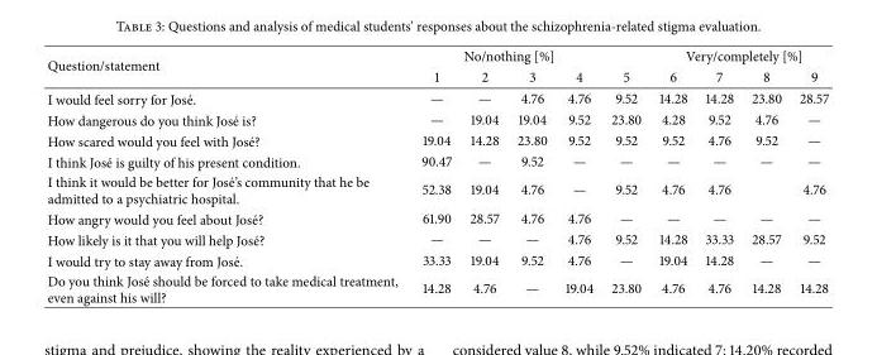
<table><thead><tr><td rowspan="2">Question/statement</td><td colspan="4">No/nothing [%]</td><td rowspan="2">5</td><td colspan="4">Very/completely [%]</td></tr><tr><td>1</td><td>2</td><td>3</td><td>4</td><td>6</td><td>7</td><td>8</td><td>9</td></tr></thead><tbody><tr><td>I would feel sorry for Jos´e.</td><td>—</td><td>—</td><td>4.76</td><td>4.76</td><td>9.52</td><td>14.28</td><td>14.28</td><td>23.80</td><td>28.57</td></tr><tr><td>How dangerous do you think Jos´e is?</td><td>—</td><td>19.04</td><td>19.04</td><td>9.52</td><td>23.80</td><td>4.28</td><td>9.52</td><td>4.76</td><td>—</td></tr><tr><td>How scared would you feel with Jos´e?</td><td>19.04</td><td>14.28</td><td>23.80</td><td>9.52</td><td>9.52</td><td>9.52</td><td>4.76</td><td>9.52</td><td>—</td></tr><tr><td>I think Jos´e is guilty of his present condition.</td><td>90.47</td><td>—</td><td>9.52</td><td>—</td><td>—</td><td>—</td><td>—</td><td>—</td><td>—</td></tr><tr><td>I think it would be better for Jos´e’s community that he be admitted to a psychiatric hospital.</td><td>52.38</td><td>19.04</td><td>4.76</td><td>—</td><td>9.52</td><td>4.76</td><td>4.76</td><td></td><td>4.76</td></tr><tr><td>How angry would you feel about Jos´e?</td><td>61.90</td><td>28.57</td><td>4.76</td><td>4.76</td><td>—</td><td>—</td><td>—</td><td>—</td><td>—</td></tr><tr><td>How likely is it that you will help Jos´e?</td><td>—</td><td>—</td><td>—</td><td>4.76</td><td>9.52</td><td>14.28</td><td>33.33</td><td>28.57</td><td>9.52</td></tr><tr><td>I would try to stay away from Jos´e.</td><td>33.33</td><td>19.04</td><td>9.52</td><td>4.76</td><td>—</td><td>19.04</td><td>14.28</td><td>—</td><td>—</td></tr><tr><td>Do you think Jos´e should be forced to take medical treatment, even against his will?</td><td>14.28</td><td>4.76</td><td>—</td><td>19.04</td><td>23.80</td><td>4.76</td><td>4.76</td><td>14.28</td><td>14.28</td></tr></tbody></table>